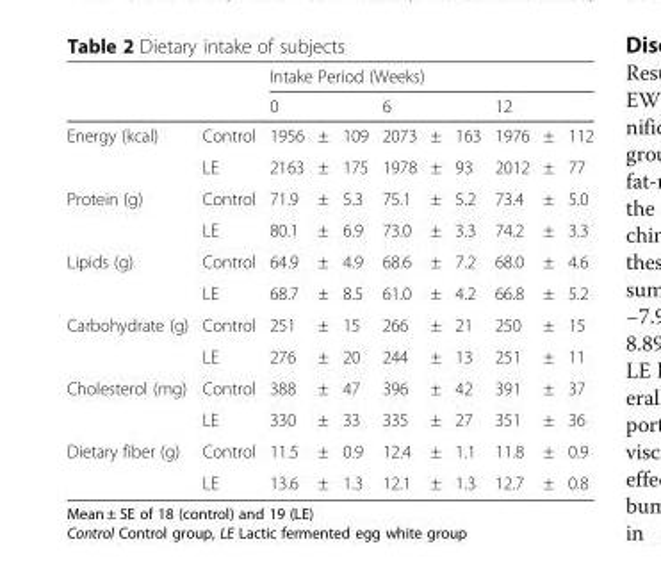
<table><thead><tr><td rowspan="3">Energy (kcal)</td><td rowspan="3">Control</td><td colspan="9">Intake Period (Weeks)</td></tr><tr><td colspan="3">0</td><td colspan="3">6</td><td colspan="3">12</td></tr><tr><td>1956</td><td>±</td><td>109</td><td>2073</td><td>±</td><td>163</td><td>1976</td><td>±</td><td>112</td></tr></thead><tbody><tr><td></td><td>LE</td><td>2163</td><td>±</td><td>175</td><td>1978</td><td>±</td><td>93</td><td>2012</td><td>±</td><td>77</td></tr><tr><td rowspan="2">Protein (g)</td><td>Control</td><td>71.9</td><td>±</td><td>5.3</td><td>75.1</td><td>±</td><td>5.2</td><td>73.4</td><td>±</td><td>5.0</td></tr><tr><td>LE</td><td>80.1</td><td>±</td><td>6.9</td><td>73.0</td><td>±</td><td>3.3</td><td>74.2</td><td>±</td><td>3.3</td></tr><tr><td rowspan="2">Lipids (g)</td><td>Control</td><td>64.9</td><td>±</td><td>4.9</td><td>68.6</td><td>±</td><td>7.2</td><td>68.0</td><td>±</td><td>4.6</td></tr><tr><td>LE</td><td>68.7</td><td>±</td><td>8.5</td><td>61.0</td><td>±</td><td>4.2</td><td>66.8</td><td>±</td><td>5.2</td></tr><tr><td rowspan="2">Carbohydrate (g)</td><td>Control</td><td>251</td><td>±</td><td>15</td><td>266</td><td>±</td><td>21</td><td>250</td><td>±</td><td>15</td></tr><tr><td>LE</td><td>276</td><td>±</td><td>20</td><td>244</td><td>±</td><td>13</td><td>251</td><td>±</td><td>11</td></tr><tr><td rowspan="2">Cholesterol (mg)</td><td>Control</td><td>388</td><td>±</td><td>47</td><td>396</td><td>±</td><td>42</td><td>391</td><td>±</td><td>37</td></tr><tr><td>LE</td><td>330</td><td>±</td><td>33</td><td>335</td><td>±</td><td>27</td><td>351</td><td>±</td><td>36</td></tr><tr><td rowspan="2">Dietary fiber (g)</td><td>Control</td><td>11.5</td><td>±</td><td>0.9</td><td>12.4</td><td>±</td><td>1.1</td><td>11.8</td><td>±</td><td>0.9</td></tr><tr><td>LE</td><td>13.6</td><td>±</td><td>1.3</td><td>12.1</td><td>±</td><td>1.3</td><td>12.7</td><td>±</td><td>0.8</td></tr></tbody></table>